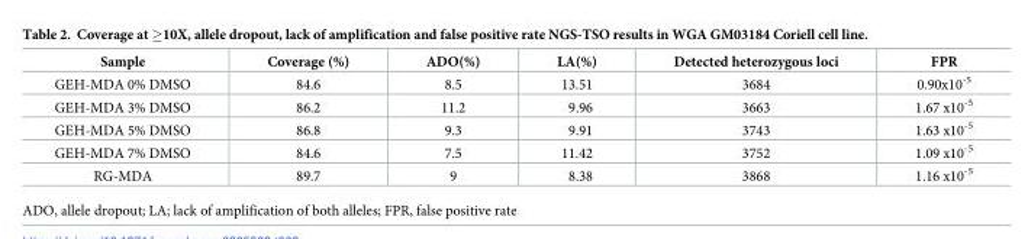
<table><thead><tr><td>Sample</td><td>Coverage (%)</td><td>ADO(%)</td><td>LA(%)</td><td>Detected heterozygous loci</td><td>FPR</td></tr></thead><tbody><tr><td>GEH-MDA 0% DMSO</td><td>84.6</td><td>8.5</td><td>13.51</td><td>3684</td><td>0.90x10<sup>-5</sup></td></tr><tr><td>GEH-MDA 3% DMSO</td><td>86.2</td><td>11.2</td><td>9.96</td><td>3663</td><td>1.67 x10<sup>-5</sup></td></tr><tr><td>GEH-MDA 5% DMSO</td><td>86.8</td><td>9.3</td><td>9.91</td><td>3743</td><td>1.63 x10<sup>-5</sup></td></tr><tr><td>GEH-MDA 7% DMSO</td><td>84.6</td><td>7.5</td><td>11.42</td><td>3752</td><td>1.09 x10<sup>-5</sup></td></tr><tr><td>RG-MDA</td><td>89.7</td><td>9</td><td>8.38</td><td>3868</td><td>1.16 x10<sup>-5</sup></td></tr></tbody></table>